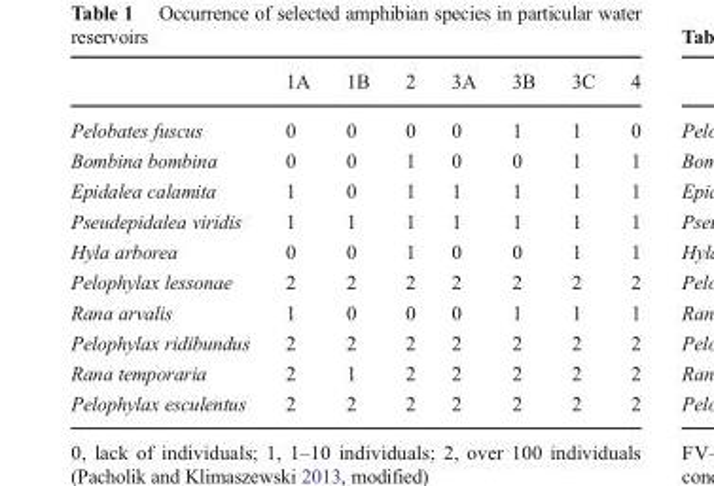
<table><thead><tr><td></td><td>1A</td><td>1B</td><td>2</td><td>3A</td><td>3B</td><td>3C</td><td>4</td></tr></thead><tbody><tr><td>Pelobates fuscus</td><td>0</td><td>0</td><td>0</td><td>0</td><td>1</td><td>1</td><td>0</td></tr><tr><td>Bombina bombina</td><td>0</td><td>0</td><td>1</td><td>0</td><td>0</td><td>1</td><td>1</td></tr><tr><td>Epidalea calamita</td><td>1</td><td>0</td><td>1</td><td>1</td><td>1</td><td>1</td><td>1</td></tr><tr><td>Pseudepidalea viridis</td><td>1</td><td>1</td><td>1</td><td>1</td><td>1</td><td>1</td><td>1</td></tr><tr><td>Hyla arborea</td><td>0</td><td>0</td><td>1</td><td>0</td><td>0</td><td>1</td><td>1</td></tr><tr><td>Pelophylax lessonae</td><td>2</td><td>2</td><td>2</td><td>2</td><td>2</td><td>2</td><td>2</td></tr><tr><td>Rana arvalis</td><td>1</td><td>0</td><td>0</td><td>0</td><td>1</td><td>1</td><td>1</td></tr><tr><td>Pelophylax ridibundus</td><td>2</td><td>2</td><td>2</td><td>2</td><td>2</td><td>2</td><td>2</td></tr><tr><td>Rana temporaria</td><td>2</td><td>1</td><td>2</td><td>2</td><td>2</td><td>2</td><td>2</td></tr><tr><td>Pelophylax esculentus</td><td>2</td><td>2</td><td>2</td><td>2</td><td>2</td><td>2</td><td>2</td></tr></tbody></table>